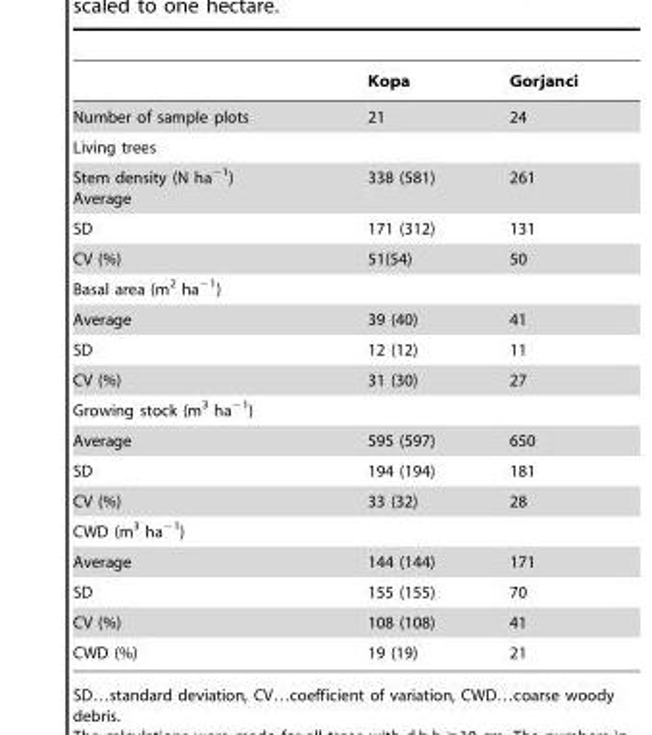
<table><thead><tr><td></td><td>Kopa</td><td>Gorjanci</td></tr></thead><tbody><tr><td>Number of sample plots</td><td>21</td><td>24</td></tr><tr><td colspan="3">Living trees</td></tr><tr><td>Stem density (N ha<sup>−1</sup>) Average</td><td>338 (581)</td><td>261</td></tr><tr><td>SD</td><td>171 (312)</td><td>131</td></tr><tr><td>CV (%)</td><td>51(54)</td><td>50</td></tr><tr><td colspan="3">Basal area (m<sup>2</sup> ha<sup>−1</sup>)</td></tr><tr><td>Average</td><td>39 (40)</td><td>41</td></tr><tr><td>SD</td><td>12 (12)</td><td>11</td></tr><tr><td>CV (%)</td><td>31 (30)</td><td>27</td></tr><tr><td colspan="3">Growing stock (m<sup>3</sup> ha<sup>−1</sup>)</td></tr><tr><td>Average</td><td>595 (597)</td><td>650</td></tr><tr><td>SD</td><td>194 (194)</td><td>181</td></tr><tr><td>CV (%)</td><td>33 (32)</td><td>28</td></tr><tr><td colspan="3">CWD (m<sup>3</sup> ha<sup>−1</sup>)</td></tr><tr><td>Average</td><td>144 (144)</td><td>171</td></tr><tr><td>SD</td><td>155 (155)</td><td>70</td></tr><tr><td>CV (%)</td><td>108 (108)</td><td>41</td></tr><tr><td>CWD (%)</td><td>19 (19)</td><td>21</td></tr></tbody></table>